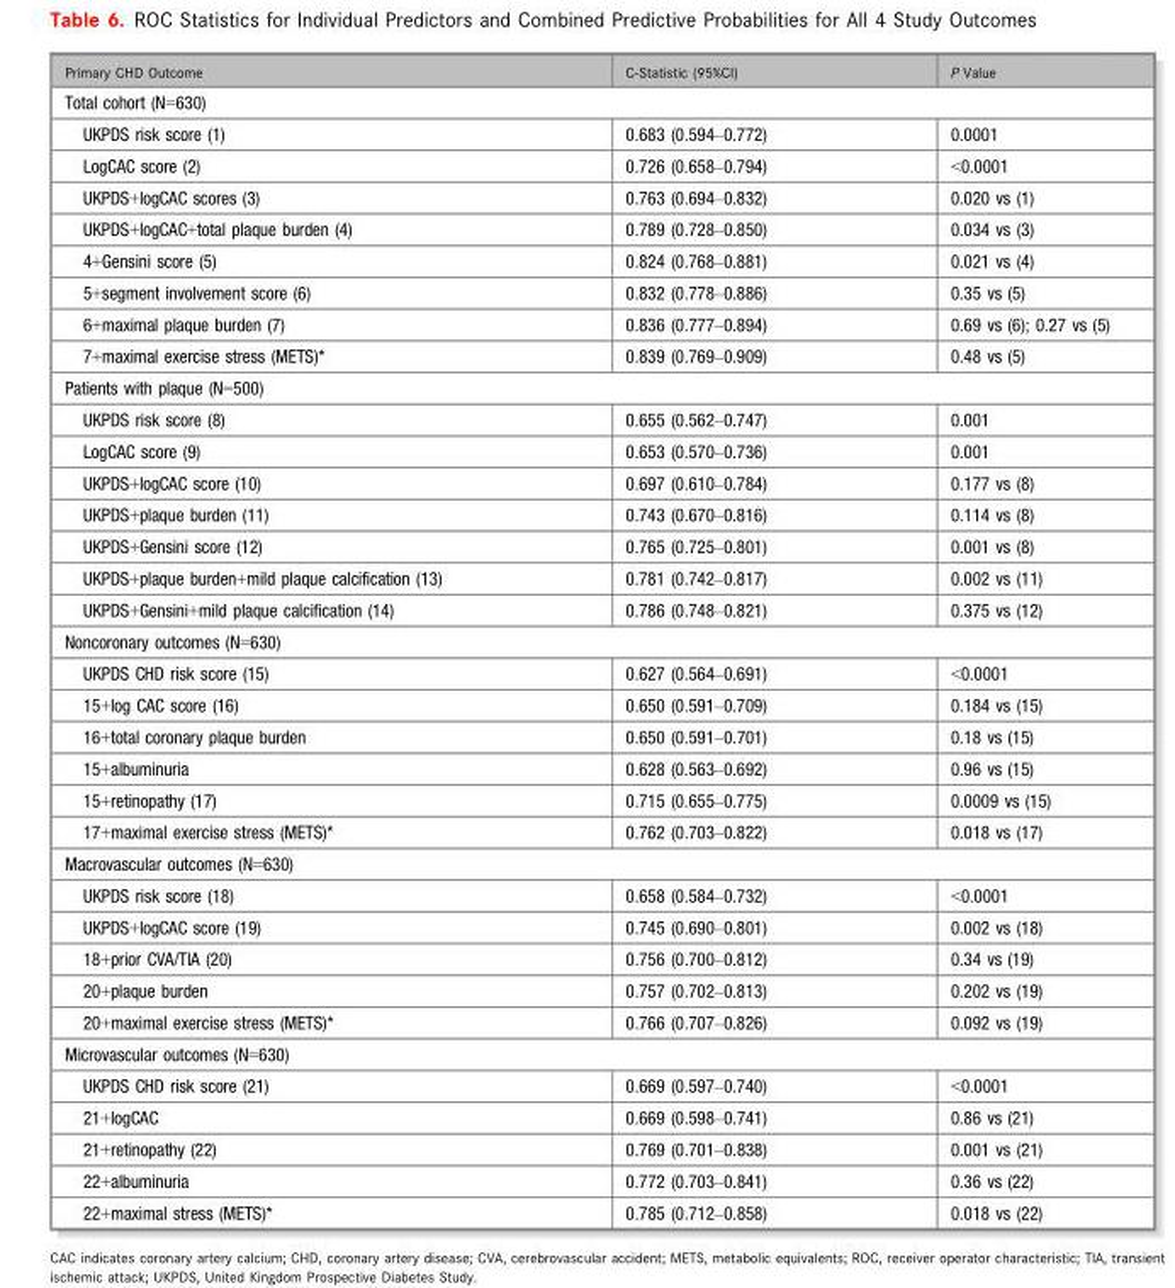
<table><thead><tr><td>Primary CHD Outcome</td><td>C-Statistic (95%CI)</td><td>P Value</td></tr></thead><tbody><tr><td colspan="3">Total cohort (N=630)</td></tr><tr><td>UKPDS risk score (1)</td><td>0.683 (0.594–0.772)</td><td>0.0001</td></tr><tr><td>LogCAC score (2)</td><td>0.726 (0.658–0.794)</td><td>&lt;0.0001</td></tr><tr><td>UKPDS+logCAC scores (3)</td><td>0.763 (0.694–0.832)</td><td>0.020 vs (1)</td></tr><tr><td>UKPDS+logCAC+total plaque burden (4)</td><td>0.789 (0.728–0.850)</td><td>0.034 vs (3)</td></tr><tr><td>4+Gensini score (5)</td><td>0.824 (0.768–0.881)</td><td>0.021 vs (4)</td></tr><tr><td>5+segment involvement score (6)</td><td>0.832 (0.778–0.886)</td><td>0.35 vs (5)</td></tr><tr><td>6+maximal plaque burden (7)</td><td>0.836 (0.777–0.894)</td><td>0.69 vs (6); 0.27 vs (5)</td></tr><tr><td>7+maximal exercise stress (METS)*</td><td>0.839 (0.769–0.909)</td><td>0.48 vs (5)</td></tr><tr><td colspan="3">Patients with plaque (N=500)</td></tr><tr><td>UKPDS risk score (8)</td><td>0.655 (0.562–0.747)</td><td>0.001</td></tr><tr><td>LogCAC score (9)</td><td>0.653 (0.570–0.736)</td><td>0.001</td></tr><tr><td>UKPDS+logCAC score (10)</td><td>0.697 (0.610–0.784)</td><td>0.177 vs (8)</td></tr><tr><td>UKPDS+plaque burden (11)</td><td>0.743 (0.670–0.816)</td><td>0.114 vs (8)</td></tr><tr><td>UKPDS+Gensini score (12)</td><td>0.765 (0.725–0.801)</td><td>0.001 vs (8)</td></tr><tr><td>UKPDS+plaque burden+mild plaque calcification (13)</td><td>0.781 (0.742–0.817)</td><td>0.002 vs (11)</td></tr><tr><td>UKPDS+Gensini+mild plaque calcification (14)</td><td>0.786 (0.748–0.821)</td><td>0.375 vs (12)</td></tr><tr><td colspan="3">Noncoronary outcomes (N=630)</td></tr><tr><td>UKPDS CHD risk score (15)</td><td>0.627 (0.564–0.691)</td><td>&lt;0.0001</td></tr><tr><td>15+log CAC score (16)</td><td>0.650 (0.591–0.709)</td><td>0.184 vs (15)</td></tr><tr><td>16+total coronary plaque burden</td><td>0.650 (0.591–0.701)</td><td>0.18 vs (15)</td></tr><tr><td>15+albuminuria</td><td>0.628 (0.563–0.692)</td><td>0.96 vs (15)</td></tr><tr><td>15+retinopathy (17)</td><td>0.715 (0.655–0.775)</td><td>0.0009 vs (15)</td></tr><tr><td>17+maximal exercise stress (METS)*</td><td>0.762 (0.703–0.822)</td><td>0.018 vs (17)</td></tr><tr><td colspan="3">Macrovascular outcomes (N=630)</td></tr><tr><td>UKPDS risk score (18)</td><td>0.658 (0.584–0.732)</td><td>&lt;0.0001</td></tr><tr><td>UKPDS+logCAC score (19)</td><td>0.745 (0.690–0.801)</td><td>0.002 vs (18)</td></tr><tr><td>18+prior CVA/TIA (20)</td><td>0.756 (0.700–0.812)</td><td>0.34 vs (19)</td></tr><tr><td>20+plaque burden</td><td>0.757 (0.702–0.813)</td><td>0.202 vs (19)</td></tr><tr><td>20+maximal exercise stress (METS)*</td><td>0.766 (0.707–0.826)</td><td>0.092 vs (19)</td></tr><tr><td colspan="3">Microvascular outcomes (N=630)</td></tr><tr><td>UKPDS CHD risk score (21)</td><td>0.669 (0.597–0.740)</td><td>&lt;0.0001</td></tr><tr><td>21+logCAC</td><td>0.669 (0.598–0.741)</td><td>0.86 vs (21)</td></tr><tr><td>21+retinopathy (22)</td><td>0.769 (0.701–0.838)</td><td>0.001 vs (21)</td></tr><tr><td>22+albuminuria</td><td>0.772 (0.703–0.841)</td><td>0.36 vs (22)</td></tr><tr><td>22+maximal stress (METS)*</td><td>0.785 (0.712–0.858)</td><td>0.018 vs (22)</td></tr></tbody></table>